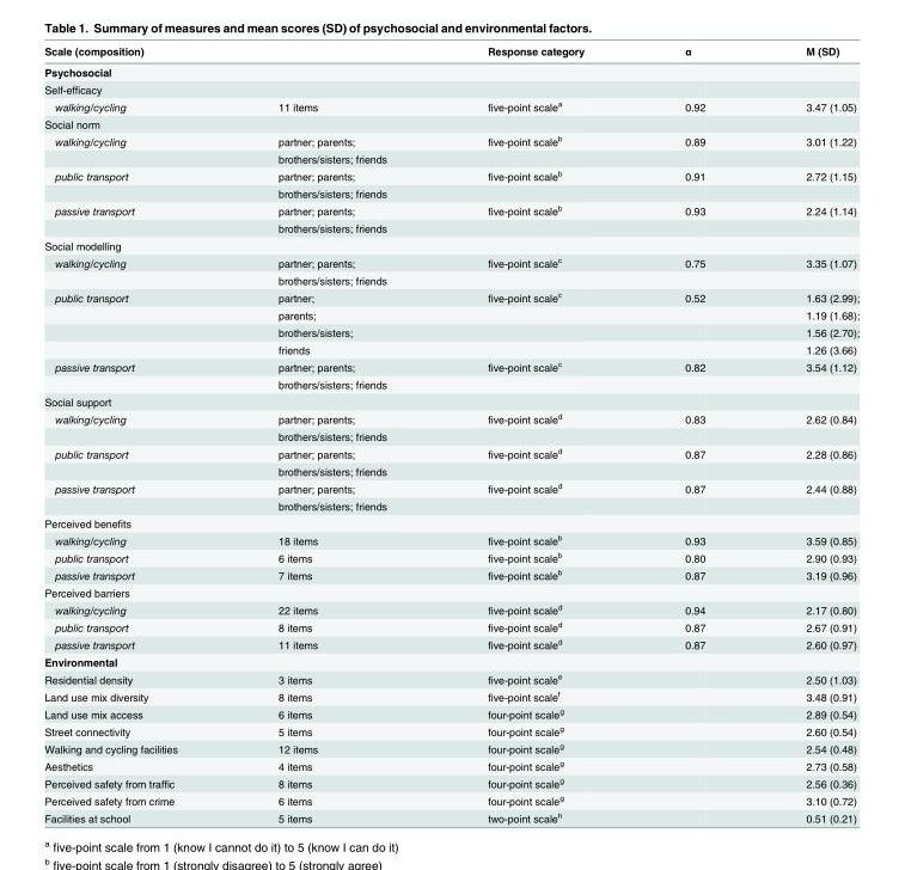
<table><thead><tr><td>Scale (composition)</td><td></td><td>Response category</td><td>α</td><td>M (SD)</td></tr></thead><tbody><tr><td colspan="5">Psychosocial</td></tr><tr><td colspan="5">Self-efficacy</td></tr><tr><td>walking/cycling</td><td>11 items</td><td>five-point scale<sup>a</sup></td><td>0.92</td><td>3.47 (1.05)</td></tr><tr><td colspan="5">Social norm</td></tr><tr><td rowspan="2">walking/cycling</td><td>partner; parents;</td><td>five-point scale<sup>b</sup></td><td>0.89</td><td>3.01 (1.22)</td></tr><tr><td>brothers/sisters; friends</td><td></td><td></td><td></td></tr><tr><td rowspan="2">public transport</td><td>partner; parents;</td><td>five-point scale<sup>b</sup></td><td>0.91</td><td>2.72 (1.15)</td></tr><tr><td>brothers/sisters; friends</td><td></td><td></td><td></td></tr><tr><td rowspan="2">passive transport</td><td>partner; parents;</td><td>five-point scale<sup>b</sup></td><td>0.93</td><td>2.24 (1.14)</td></tr><tr><td>brothers/sisters; friends</td><td></td><td></td><td></td></tr><tr><td colspan="5">Social modelling</td></tr><tr><td rowspan="2">walking/cycling</td><td>partner; parents;</td><td>five-point scale<sup>c</sup></td><td>0.75</td><td>3.35 (1.07)</td></tr><tr><td>brothers/sisters; friends</td><td></td><td></td><td></td></tr><tr><td rowspan="4">public transport</td><td>partner;</td><td>five-point scale<sup>c</sup></td><td>0.52</td><td>1.63 (2.99);</td></tr><tr><td>parents;</td><td></td><td></td><td>1.19 (1.68);</td></tr><tr><td>brothers/sisters;</td><td></td><td></td><td>1.56 (2.70);</td></tr><tr><td>friends</td><td></td><td></td><td>1.26 (3.66)</td></tr><tr><td rowspan="2">passive transport</td><td>partner; parents;</td><td>five-point scale<sup>c</sup></td><td>0.82</td><td>3.54 (1.12)</td></tr><tr><td>brothers/sisters; friends</td><td></td><td></td><td></td></tr><tr><td colspan="5">Social support</td></tr><tr><td rowspan="2">walking/cycling</td><td>partner; parents;</td><td>five-point scale<sup>d</sup></td><td>0.83</td><td>2.62 (0.84)</td></tr><tr><td>brothers/sisters; friends</td><td></td><td></td><td></td></tr><tr><td rowspan="2">public transport</td><td>partner; parents;</td><td>five-point scale<sup>d</sup></td><td>0.87</td><td>2.28 (0.86)</td></tr><tr><td>brothers/sisters; friends</td><td></td><td></td><td></td></tr><tr><td rowspan="2">passive transport</td><td>partner; parents;</td><td>five-point scale<sup>d</sup></td><td>0.87</td><td>2.44 (0.88)</td></tr><tr><td>brothers/sisters; friends</td><td></td><td></td><td></td></tr><tr><td colspan="5">Perceived benefits</td></tr><tr><td>walking/cycling</td><td>18 items</td><td>five-point scale<sup>b</sup></td><td>0.93</td><td>3.59 (0.85)</td></tr><tr><td>public transport</td><td>6 items</td><td>five-point scale<sup>b</sup></td><td>0.80</td><td>2.90 (0.93)</td></tr><tr><td>passive transport</td><td>7 items</td><td>five-point scale<sup>b</sup></td><td>0.87</td><td>3.19 (0.96)</td></tr><tr><td colspan="5">Perceived barriers</td></tr><tr><td>walking/cycling</td><td>22 items</td><td>five-point scale<sup>d</sup></td><td>0.94</td><td>2.17 (0.80)</td></tr><tr><td>public transport</td><td>8 items</td><td>five-point scale<sup>d</sup></td><td>0.87</td><td>2.67 (0.91)</td></tr><tr><td>passive transport</td><td>11 items</td><td>five-point scale<sup>d</sup></td><td>0.87</td><td>2.60 (0.97)</td></tr><tr><td colspan="5">Environmental</td></tr><tr><td>Residential density</td><td>3 items</td><td>five-point scale<sup>e</sup></td><td></td><td>2.50 (1.03)</td></tr><tr><td>Land use mix diversity</td><td>8 items</td><td>five-point scale<sup>f</sup></td><td></td><td>3.48 (0.91)</td></tr><tr><td>Land use mix access</td><td>6 items</td><td>four-point scale<sup>g</sup></td><td></td><td>2.89 (0.54)</td></tr><tr><td>Street connectivity</td><td>5 items</td><td>four-point scale<sup>g</sup></td><td></td><td>2.60 (0.54)</td></tr><tr><td>Walking and cycling facilities</td><td>12 items</td><td>four-point scale<sup>g</sup></td><td></td><td>2.54 (0.48)</td></tr><tr><td>Aesthetics</td><td>4 items</td><td>four-point scale<sup>g</sup></td><td></td><td>2.73 (0.58)</td></tr><tr><td>Perceived safety from traffic</td><td>8 items</td><td>four-point scale<sup>g</sup></td><td></td><td>2.56 (0.36)</td></tr><tr><td>Perceived safety from crime</td><td>6 items</td><td>four-point scale<sup>g</sup></td><td></td><td>3.10 (0.72)</td></tr><tr><td>Facilities at school</td><td>5 items</td><td>two-point scale<sup>h</sup></td><td></td><td>0.51 (0.21)</td></tr></tbody></table>